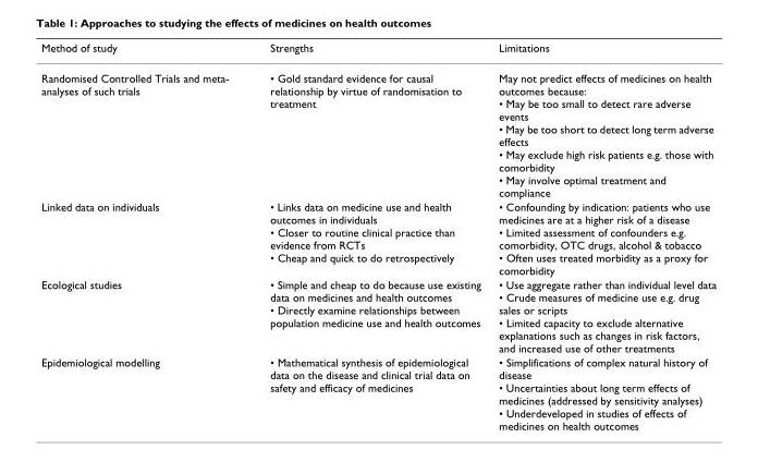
<table><thead><tr><td>Method of study</td><td>Strengths</td><td>Limitations</td></tr></thead><tbody><tr><td>Randomised Controlled Trials and meta- analyses of such trials</td><td>• Gold standard evidence for causal relationship by virtue of randomisation to treatment</td><td>May not predict effects of medicines on health outcomes because: • May be too small to detect rare adverse events • May be too short to detect long term adverse effects • May exclude high risk patients e.g. those with comorbidity • May involve optimal treatment and compliance</td></tr><tr><td>Linked data on individuals</td><td>• Links data on medicine use and health outcomes in individuals • Closer to routine clinical practice than evidence from RCTs • Cheap and quick to do retrospectively</td><td>• Confounding by indication: patients who use medicines are at a higher risk of a disease • Limited assessment of confounders e.g. comorbidity, OTC drugs, alcohol &amp; tobacco • Often uses treated morbidity as a proxy for comorbidity</td></tr><tr><td>Ecological studies</td><td>• Simple and cheap to do because use existing data on medicines and health outcomes • Directly examine relationships between population medicine use and health outcomes</td><td>• Use aggregate rather than individual level data • Crude measures of medicine use e.g. drug sales or scripts • Limited capacity to exclude alternative explanations such as changes in risk factors, and increased use of other treatments</td></tr><tr><td>Epidemiological modelling</td><td>• Mathematical synthesis of epidemiological data on the disease and clinical trial data on safety and efficacy of medicines</td><td>• Simplifications of complex natural history of disease • Uncertainties about long term effects of medicines (addressed by sensitivity analyses) • Underdeveloped in studies of effects of medicines on health outcomes</td></tr></tbody></table>